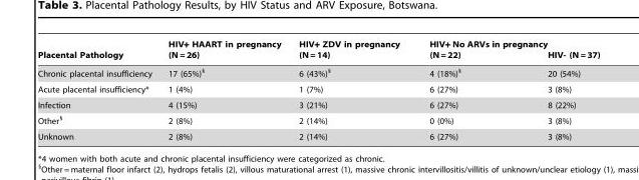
<table><thead><tr><td>Placental Pathology</td><td>HIV+ HAART in pregnancy (N = 26)</td><td>HIV+ ZDV in pregnancy (N = 14)</td><td>HIV+ No ARVs in pregnancy (N = 22)</td><td>HIV- (N = 37)</td></tr></thead><tbody><tr><td>Chronic placental insufficiency</td><td>17 (65%)§</td><td>6 (43%)§</td><td>4 (18%)§</td><td>20 (54%)</td></tr><tr><td>Acute placental insufficiency*</td><td>1 (4%)</td><td>1 (7%)</td><td>6 (27%)</td><td>3 (8%)</td></tr><tr><td>Infection</td><td>4 (15%)</td><td>3 (21%)</td><td>6 (27%)</td><td>8 (22%)</td></tr><tr><td>Other§</td><td>2 (8%)</td><td>2 (14%)</td><td>0 (0%)</td><td>3 (8%)</td></tr><tr><td>Unknown</td><td>2 (8%)</td><td>2 (14%)</td><td>6 (27%)</td><td>3 (8%)</td></tr></tbody></table>